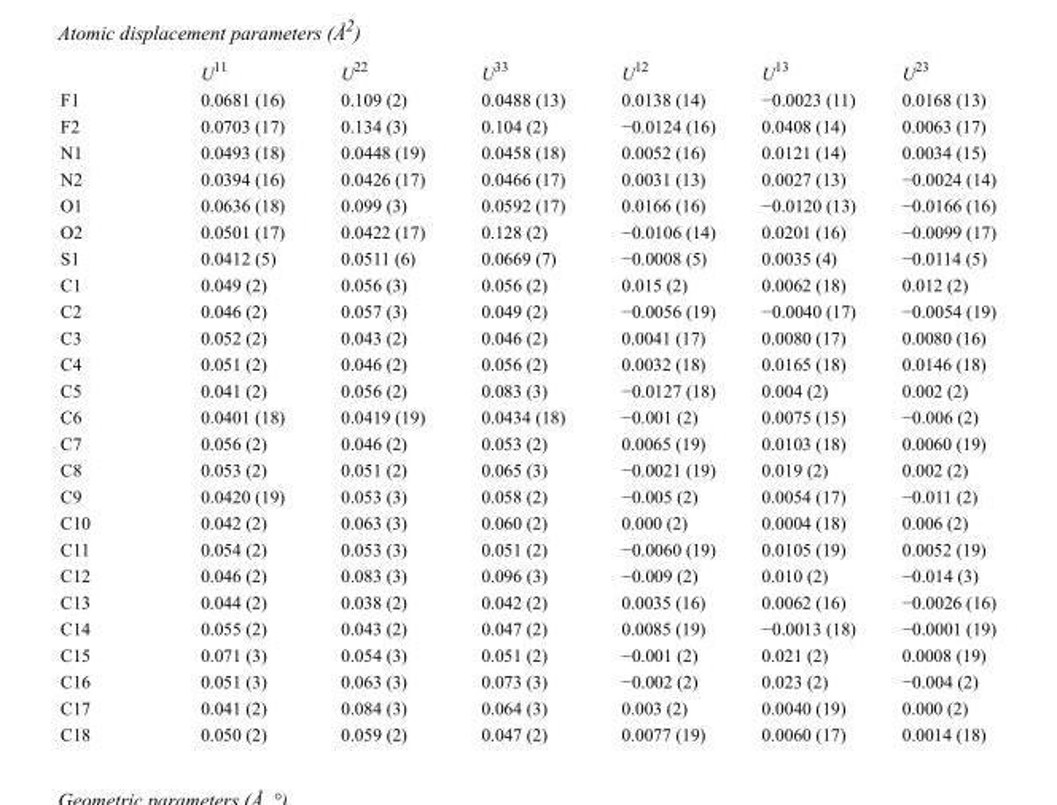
<table><thead><tr><td></td><td>U<sup>11</sup></td><td>U<sup>22</sup></td><td>U<sup>33</sup></td><td>U<sup>12</sup></td><td>U<sup>13</sup></td><td>U<sup>23</sup></td></tr></thead><tbody><tr><td>F1</td><td>0.0681 (16)</td><td>0.109 (2)</td><td>0.0488 (13)</td><td>0.0138 (14)</td><td>−0.0023 (11)</td><td>0.0168 (13)</td></tr><tr><td>F2</td><td>0.0703 (17)</td><td>0.134 (3)</td><td>0.104 (2)</td><td>−0.0124 (16)</td><td>0.0408 (14)</td><td>0.0063 (17)</td></tr><tr><td>N1</td><td>0.0493 (18)</td><td>0.0448 (19)</td><td>0.0458 (18)</td><td>0.0052 (16)</td><td>0.0121 (14)</td><td>0.0034 (15)</td></tr><tr><td>N2</td><td>0.0394 (16)</td><td>0.0426 (17)</td><td>0.0466 (17)</td><td>0.0031 (13)</td><td>0.0027 (13)</td><td>−0.0024 (14)</td></tr><tr><td>O1</td><td>0.0636 (18)</td><td>0.099 (3)</td><td>0.0592 (17)</td><td>0.0166 (16)</td><td>−0.0120 (13)</td><td>−0.0166 (16)</td></tr><tr><td>O2</td><td>0.0501 (17)</td><td>0.0422 (17)</td><td>0.128 (2)</td><td>−0.0106 (14)</td><td>0.0201 (16)</td><td>−0.0099 (17)</td></tr><tr><td>S1</td><td>0.0412 (5)</td><td>0.0511 (6)</td><td>0.0669 (7)</td><td>−0.0008 (5)</td><td>0.0035 (4)</td><td>−0.0114 (5)</td></tr><tr><td>C1</td><td>0.049 (2)</td><td>0.056 (3)</td><td>0.056 (2)</td><td>0.015 (2)</td><td>0.0062 (18)</td><td>0.012 (2)</td></tr><tr><td>C2</td><td>0.046 (2)</td><td>0.057 (3)</td><td>0.049 (2)</td><td>−0.0056 (19)</td><td>−0.0040 (17)</td><td>−0.0054 (19)</td></tr><tr><td>C3</td><td>0.052 (2)</td><td>0.043 (2)</td><td>0.046 (2)</td><td>0.0041 (17)</td><td>0.0080 (17)</td><td>0.0080 (16)</td></tr><tr><td>C4</td><td>0.051 (2)</td><td>0.046 (2)</td><td>0.056 (2)</td><td>0.0032 (18)</td><td>0.0165 (18)</td><td>0.0146 (18)</td></tr><tr><td>C5</td><td>0.041 (2)</td><td>0.056 (2)</td><td>0.083 (3)</td><td>−0.0127 (18)</td><td>0.004 (2)</td><td>0.002 (2)</td></tr><tr><td>C6</td><td>0.0401 (18)</td><td>0.0419 (19)</td><td>0.0434 (18)</td><td>−0.001 (2)</td><td>0.0075 (15)</td><td>−0.006 (2)</td></tr><tr><td>C7</td><td>0.056 (2)</td><td>0.046 (2)</td><td>0.053 (2)</td><td>0.0065 (19)</td><td>0.0103 (18)</td><td>0.0060 (19)</td></tr><tr><td>C8</td><td>0.053 (2)</td><td>0.051 (2)</td><td>0.065 (3)</td><td>−0.0021 (19)</td><td>0.019 (2)</td><td>0.002 (2)</td></tr><tr><td>C9</td><td>0.0420 (19)</td><td>0.053 (3)</td><td>0.058 (2)</td><td>−0.005 (2)</td><td>0.0054 (17)</td><td>−0.011 (2)</td></tr><tr><td>C10</td><td>0.042 (2)</td><td>0.063 (3)</td><td>0.060 (2)</td><td>0.000 (2)</td><td>0.0004 (18)</td><td>0.006 (2)</td></tr><tr><td>C11</td><td>0.054 (2)</td><td>0.053 (3)</td><td>0.051 (2)</td><td>−0.0060 (19)</td><td>0.0105 (19)</td><td>0.0052 (19)</td></tr><tr><td>C12</td><td>0.046 (2)</td><td>0.083 (3)</td><td>0.096 (3)</td><td>−0.009 (2)</td><td>0.010 (2)</td><td>−0.014 (3)</td></tr><tr><td>C13</td><td>0.044 (2)</td><td>0.038 (2)</td><td>0.042 (2)</td><td>0.0035 (16)</td><td>0.0062 (16)</td><td>−0.0026 (16)</td></tr><tr><td>C14</td><td>0.055 (2)</td><td>0.043 (2)</td><td>0.047 (2)</td><td>0.0085 (19)</td><td>−0.0013 (18)</td><td>−0.0001 (19)</td></tr><tr><td>C15</td><td>0.071 (3)</td><td>0.054 (3)</td><td>0.051 (2)</td><td>−0.001 (2)</td><td>0.021 (2)</td><td>0.0008 (19)</td></tr><tr><td>C16</td><td>0.051 (3)</td><td>0.063 (3)</td><td>0.073 (3)</td><td>−0.002 (2)</td><td>0.023 (2)</td><td>−0.004 (2)</td></tr><tr><td>C17</td><td>0.041 (2)</td><td>0.084 (3)</td><td>0.064 (3)</td><td>0.003 (2)</td><td>0.0040 (19)</td><td>0.000 (2)</td></tr><tr><td>C18</td><td>0.050 (2)</td><td>0.059 (2)</td><td>0.047 (2)</td><td>0.0077 (19)</td><td>0.0060 (17)</td><td>0.0014 (18)</td></tr></tbody></table>